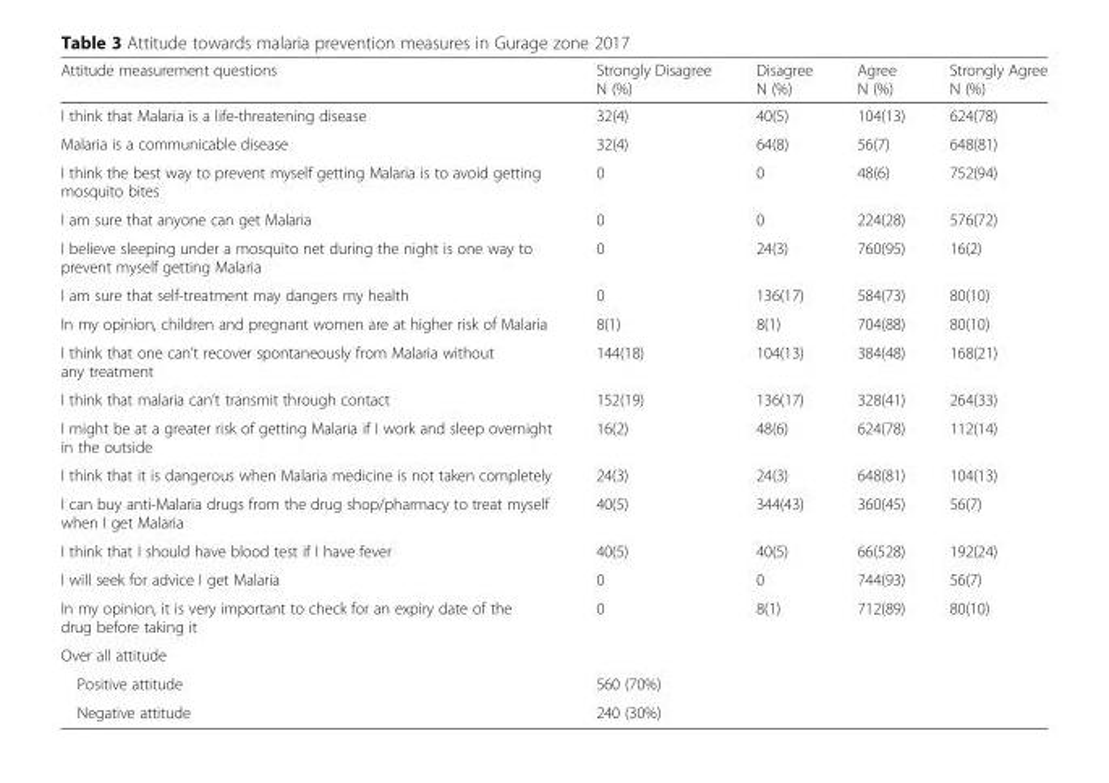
<table><thead><tr><td>Attitude measurement questions</td><td>Strongly Disagree N (%)</td><td>Disagree N (%)</td><td>Agree N (%)</td><td>Strongly Agree N (%)</td></tr></thead><tbody><tr><td>I think that Malaria is a life-threatening disease</td><td>32(4)</td><td>40(5)</td><td>104(13)</td><td>624(78)</td></tr><tr><td>Malaria is a communicable disease</td><td>32(4)</td><td>64(8)</td><td>56(7)</td><td>648(81)</td></tr><tr><td>I think the best way to prevent myself getting Malaria is to avoid getting mosquito bites</td><td>0</td><td>0</td><td>48(6)</td><td>752(94)</td></tr><tr><td>I am sure that anyone can get Malaria</td><td>0</td><td>0</td><td>224(28)</td><td>576(72)</td></tr><tr><td>I believe sleeping under a mosquito net during the night is one way to prevent myself getting Malaria</td><td>0</td><td>24(3)</td><td>760(95)</td><td>16(2)</td></tr><tr><td>I am sure that self-treatment may dangers my health</td><td>0</td><td>136(17)</td><td>584(73)</td><td>80(10)</td></tr><tr><td>In my opinion, children and pregnant women are at higher risk of Malaria</td><td>8(1)</td><td>8(1)</td><td>704(88)</td><td>80(10)</td></tr><tr><td>I think that one can’t recover spontaneously from Malaria without any treatment</td><td>144(18)</td><td>104(13)</td><td>384(48)</td><td>168(21)</td></tr><tr><td>I think that malaria can’t transmit through contact</td><td>152(19)</td><td>136(17)</td><td>328(41)</td><td>264(33)</td></tr><tr><td>I might be at a greater risk of getting Malaria if I work and sleep overnight in the outside</td><td>16(2)</td><td>48(6)</td><td>624(78)</td><td>112(14)</td></tr><tr><td>I think that it is dangerous when Malaria medicine is not taken completely</td><td>24(3)</td><td>24(3)</td><td>648(81)</td><td>104(13)</td></tr><tr><td>I can buy anti-Malaria drugs from the drug shop/pharmacy to treat myself when I get Malaria</td><td>40(5)</td><td>344(43)</td><td>360(45)</td><td>56(7)</td></tr><tr><td>I think that I should have blood test if I have fever</td><td>40(5)</td><td>40(5)</td><td>66(528)</td><td>192(24)</td></tr><tr><td>I will seek for advice I get Malaria</td><td>0</td><td>0</td><td>744(93)</td><td>56(7)</td></tr><tr><td>In my opinion, it is very important to check for an expiry date of the drug before taking it</td><td>0</td><td>8(1)</td><td>712(89)</td><td>80(10)</td></tr><tr><td colspan="5">Over all attitude</td></tr><tr><td>Positive attitude</td><td colspan="4">560 (70%)</td></tr><tr><td>Negative attitude</td><td colspan="4">240 (30%)</td></tr></tbody></table>